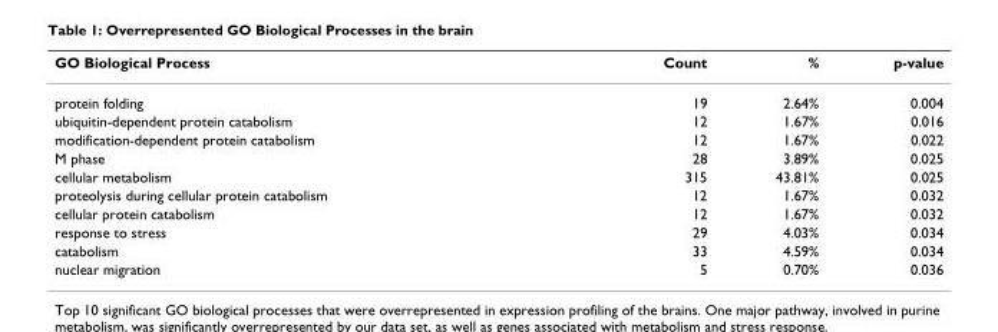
<table><thead><tr><td>GO Biological Process</td><td>Count</td><td>%</td><td>p-value</td></tr></thead><tbody><tr><td>protein folding</td><td>19</td><td>2.64%</td><td>0.004</td></tr><tr><td>ubiquitin-dependent protein catabolism</td><td>12</td><td>1.67%</td><td>0.016</td></tr><tr><td>modification-dependent protein catabolism</td><td>12</td><td>1.67%</td><td>0.022</td></tr><tr><td>M phase</td><td>28</td><td>3.89%</td><td>0.025</td></tr><tr><td>cellular metabolism</td><td>315</td><td>43.81%</td><td>0.025</td></tr><tr><td>proteolysis during cellular protein catabolism</td><td>12</td><td>1.67%</td><td>0.032</td></tr><tr><td>cellular protein catabolism</td><td>12</td><td>1.67%</td><td>0.032</td></tr><tr><td>response to stress</td><td>29</td><td>4.03%</td><td>0.034</td></tr><tr><td>catabolism</td><td>33</td><td>4.59%</td><td>0.034</td></tr><tr><td>nuclear migration</td><td>5</td><td>0.70%</td><td>0.036</td></tr></tbody></table>